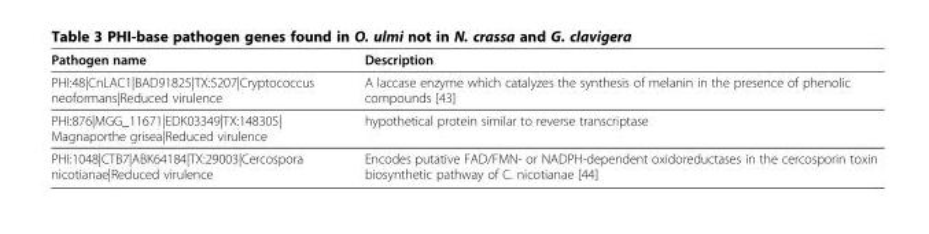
<table><thead><tr><td>Pathogen name</td><td>Description</td></tr></thead><tbody><tr><td>PHI:48|CnLAC1|BAD91825|TX:5207|Cryptococcus neoformans|Reduced virulence</td><td>A laccase enzyme which catalyzes the synthesis of melanin in the presence of phenolic compounds [43]</td></tr><tr><td>PHI:876|MGG_11671|EDK03349|TX:148305| Magnaporthe grisea|Reduced virulence</td><td>hypothetical protein similar to reverse transcriptase</td></tr><tr><td>PHI:1048|CTB7|ABK64184|TX:29003|Cercospora nicotianae|Reduced virulence</td><td>Encodes putative FAD/FMN- or NADPH-dependent oxidoreductases in the cercosporin toxin biosynthetic pathway of C. nicotianae [44]</td></tr></tbody></table>